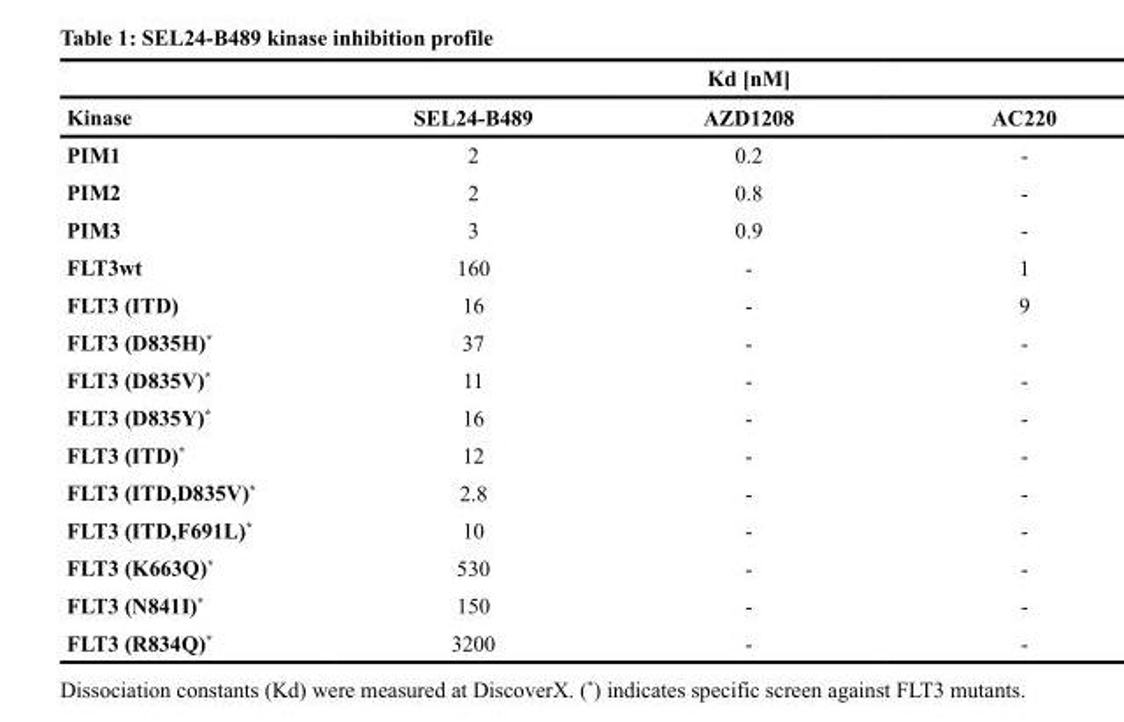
<table><thead><tr><td rowspan="2">Kinase</td><td colspan="3">Kd [nM]</td></tr><tr><td>SEL24-B489</td><td>AZD1208</td><td>AC220</td></tr></thead><tbody><tr><td>PIM1</td><td>2</td><td>0.2</td><td>-</td></tr><tr><td>PIM2</td><td>2</td><td>0.8</td><td>-</td></tr><tr><td>PIM3</td><td>3</td><td>0.9</td><td>-</td></tr><tr><td>FLT3wt</td><td>160</td><td>-</td><td>1</td></tr><tr><td>FLT3 (ITD)</td><td>16</td><td>-</td><td>9</td></tr><tr><td>FLT3 (D835H)*</td><td>37</td><td>-</td><td>-</td></tr><tr><td>FLT3 (D835V)*</td><td>11</td><td>-</td><td>-</td></tr><tr><td>FLT3 (D835Y)*</td><td>16</td><td>-</td><td>-</td></tr><tr><td>FLT3 (ITD)*</td><td>12</td><td>-</td><td>-</td></tr><tr><td>FLT3 (ITD,D835V)*</td><td>2.8</td><td>-</td><td>-</td></tr><tr><td>FLT3 (ITD,F691L)*</td><td>10</td><td>-</td><td>-</td></tr><tr><td>FLT3 (K663Q)*</td><td>530</td><td>-</td><td>-</td></tr><tr><td>FLT3 (N841I)*</td><td>150</td><td>-</td><td>-</td></tr><tr><td>FLT3 (R834Q)*</td><td>3200</td><td>-</td><td>-</td></tr></tbody></table>